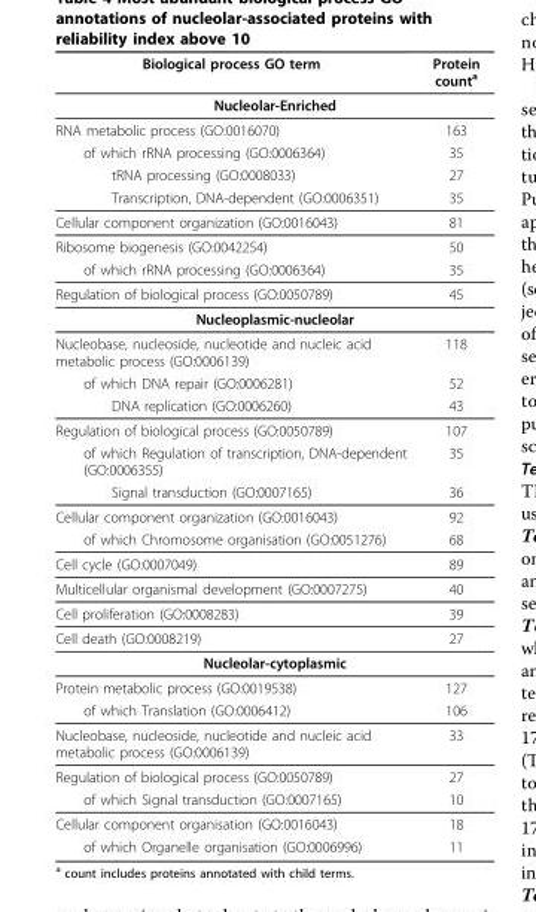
<table><thead><tr><td>Biological process GO term</td><td>Protein count<sup>a</sup></td></tr></thead><tbody><tr><td colspan="2">Nucleolar-Enriched</td></tr><tr><td>RNA metabolic process (GO:0016070)</td><td>163</td></tr><tr><td>of which rRNA processing (GO:0006364)</td><td>35</td></tr><tr><td>tRNA processing (GO:0008033)</td><td>27</td></tr><tr><td>Transcription, DNA-dependent (GO:0006351)</td><td>35</td></tr><tr><td>Cellular component organization (GO:0016043)</td><td>81</td></tr><tr><td>Ribosome biogenesis (GO:0042254)</td><td>50</td></tr><tr><td>of which rRNA processing (GO:0006364)</td><td>35</td></tr><tr><td>Regulation of biological process (GO:0050789)</td><td>45</td></tr><tr><td colspan="2">Nucleoplasmic-nucleolar</td></tr><tr><td>Nucleobase, nucleoside, nucleotide and nucleic acid metabolic process (GO:0006139)</td><td>118</td></tr><tr><td>of which DNA repair (GO:0006281)</td><td>52</td></tr><tr><td>DNA replication (GO:0006260)</td><td>43</td></tr><tr><td>Regulation of biological process (GO:0050789)</td><td>107</td></tr><tr><td>of which Regulation of transcription, DNA-dependent (GO:0006355)</td><td>35</td></tr><tr><td>Signal transduction (GO:0007165)</td><td>36</td></tr><tr><td>Cellular component organization (GO:0016043)</td><td>92</td></tr><tr><td>of which Chromosome organisation (GO:0051276)</td><td>68</td></tr><tr><td>Cell cycle (GO:0007049)</td><td>89</td></tr><tr><td>Multicellular organismal development (GO:0007275)</td><td>40</td></tr><tr><td>Cell proliferation (GO:0008283)</td><td>39</td></tr><tr><td>Cell death (GO:0008219)</td><td>27</td></tr><tr><td colspan="2">Nucleolar-cytoplasmic</td></tr><tr><td>Protein metabolic process (GO:0019538)</td><td>127</td></tr><tr><td>of which Translation (GO:0006412)</td><td>106</td></tr><tr><td>Nucleobase, nucleoside, nucleotide and nucleic acid metabolic process (GO:0006139)</td><td>33</td></tr><tr><td>Regulation of biological process (GO:0050789)</td><td>27</td></tr><tr><td>of which Signal transduction (GO:0007165)</td><td>10</td></tr><tr><td>Cellular component organisation (GO:0016043)</td><td>18</td></tr><tr><td>of which Organelle organisation (GO:0006996)</td><td>11</td></tr></tbody></table>